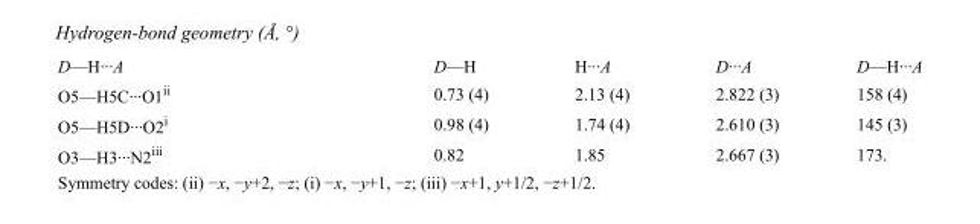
<table><tbody><tr><td>D—H···A</td><td>D—H</td><td>H···A</td><td>D···A</td><td>D—H···A</td></tr><tr><td>O5—H5C···O1<sup>ii</sup></td><td>0.73 (4)</td><td>2.13 (4)</td><td>2.822 (3)</td><td>158 (4)</td></tr><tr><td>O5—H5D···O2<sup>i</sup></td><td>0.98 (4)</td><td>1.74 (4)</td><td>2.610 (3)</td><td>145 (3)</td></tr><tr><td>O3—H3···N2<sup>iii</sup></td><td>0.82</td><td>1.85</td><td>2.667 (3)</td><td>173.</td></tr></tbody></table>